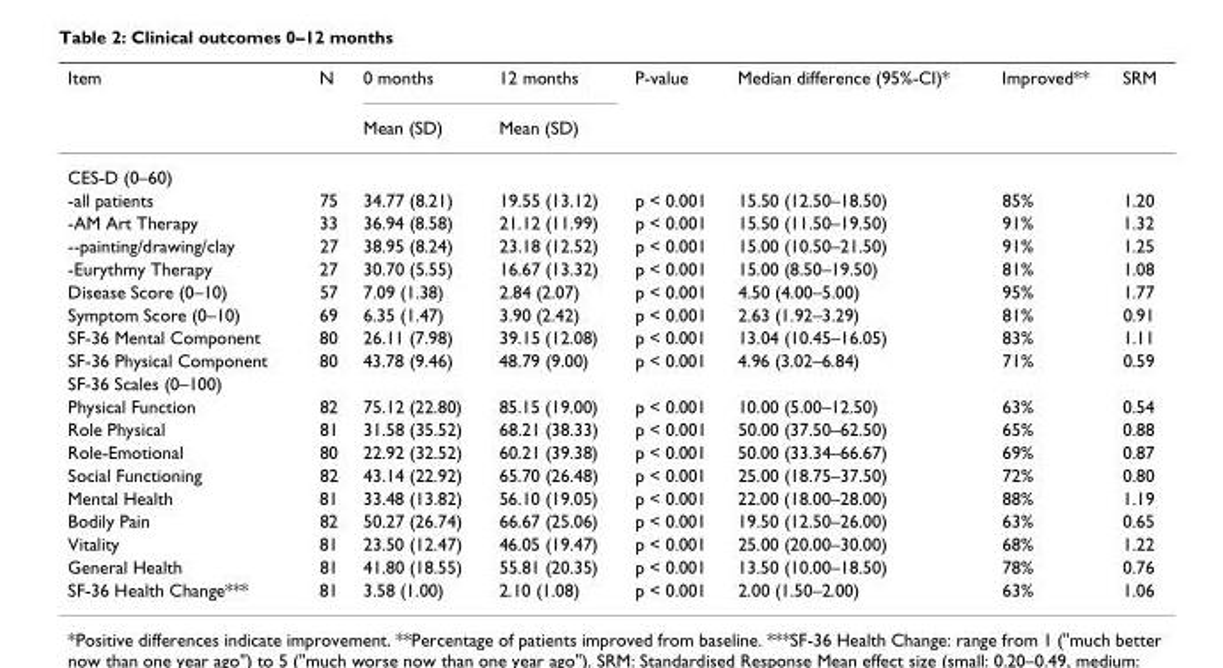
<table><thead><tr><td rowspan="2">Item</td><td rowspan="2">N</td><td rowspan="2">0 months Mean (SD)</td><td rowspan="2">12 months Mean (SD)</td><td rowspan="2">P-value</td><td rowspan="2">Median difference (95%-CI)*</td><td rowspan="2">Improved**</td><td rowspan="2">SRM</td></tr><tr></tr></thead><tbody><tr><td colspan="8">CES-D (0–60)</td></tr><tr><td>-all patients</td><td>75</td><td>34.77 (8.21)</td><td>19.55 (13.12)</td><td>p &lt; 0.001</td><td>15.50 (12.50–18.50)</td><td>85%</td><td>1.20</td></tr><tr><td>-AM Art Therapy</td><td>33</td><td>36.94 (8.58)</td><td>21.12 (11.99)</td><td>p &lt; 0.001</td><td>15.50 (11.50–19.50)</td><td>91%</td><td>1.32</td></tr><tr><td>--painting/drawing/clay</td><td>27</td><td>38.95 (8.24)</td><td>23.18 (12.52)</td><td>p &lt; 0.001</td><td>15.00 (10.50–21.50)</td><td>91%</td><td>1.25</td></tr><tr><td>-Eurythmy Therapy</td><td>27</td><td>30.70 (5.55)</td><td>16.67 (13.32)</td><td>p &lt; 0.001</td><td>15.00 (8.50–19.50)</td><td>81%</td><td>1.08</td></tr><tr><td>Disease Score (0–10)</td><td>57</td><td>7.09 (1.38)</td><td>2.84 (2.07)</td><td>p &lt; 0.001</td><td>4.50 (4.00–5.00)</td><td>95%</td><td>1.77</td></tr><tr><td>Symptom Score (0–10)</td><td>69</td><td>6.35 (1.47)</td><td>3.90 (2.42)</td><td>p &lt; 0.001</td><td>2.63 (1.92–3.29)</td><td>81%</td><td>0.91</td></tr><tr><td>SF-36 Mental Component</td><td>80</td><td>26.11 (7.98)</td><td>39.15 (12.08)</td><td>p &lt; 0.001</td><td>13.04 (10.45–16.05)</td><td>83%</td><td>1.11</td></tr><tr><td>SF-36 Physical Component</td><td>80</td><td>43.78 (9.46)</td><td>48.79 (9.00)</td><td>p &lt; 0.001</td><td>4.96 (3.02–6.84)</td><td>71%</td><td>0.59</td></tr><tr><td colspan="8">SF-36 Scales (0–100)</td></tr><tr><td>Physical Function</td><td>82</td><td>75.12 (22.80)</td><td>85.15 (19.00)</td><td>p &lt; 0.001</td><td>10.00 (5.00–12.50)</td><td>63%</td><td>0.54</td></tr><tr><td>Role Physical</td><td>81</td><td>31.58 (35.52)</td><td>68.21 (38.33)</td><td>p &lt; 0.001</td><td>50.00 (37.50–62.50)</td><td>65%</td><td>0.88</td></tr><tr><td>Role-Emotional</td><td>80</td><td>22.92 (32.52)</td><td>60.21 (39.38)</td><td>p &lt; 0.001</td><td>50.00 (33.34–66.67)</td><td>69%</td><td>0.87</td></tr><tr><td>Social Functioning</td><td>82</td><td>43.14 (22.92)</td><td>65.70 (26.48)</td><td>p &lt; 0.001</td><td>25.00 (18.75–37.50)</td><td>72%</td><td>0.80</td></tr><tr><td>Mental Health</td><td>81</td><td>33.48 (13.82)</td><td>56.10 (19.05)</td><td>p &lt; 0.001</td><td>22.00 (18.00–28.00)</td><td>88%</td><td>1.19</td></tr><tr><td>Bodily Pain</td><td>82</td><td>50.27 (26.74)</td><td>66.67 (25.06)</td><td>p &lt; 0.001</td><td>19.50 (12.50–26.00)</td><td>63%</td><td>0.65</td></tr><tr><td>Vitality</td><td>81</td><td>23.50 (12.47)</td><td>46.05 (19.47)</td><td>p &lt; 0.001</td><td>25.00 (20.00–30.00)</td><td>68%</td><td>1.22</td></tr><tr><td>General Health</td><td>81</td><td>41.80 (18.55)</td><td>55.81 (20.35)</td><td>p &lt; 0.001</td><td>13.50 (10.00–18.50)</td><td>78%</td><td>0.76</td></tr><tr><td>SF-36 Health Change***</td><td>81</td><td>3.58 (1.00)</td><td>2.10 (1.08)</td><td>p &lt; 0.001</td><td>2.00 (1.50–2.00)</td><td>63%</td><td>1.06</td></tr></tbody></table>